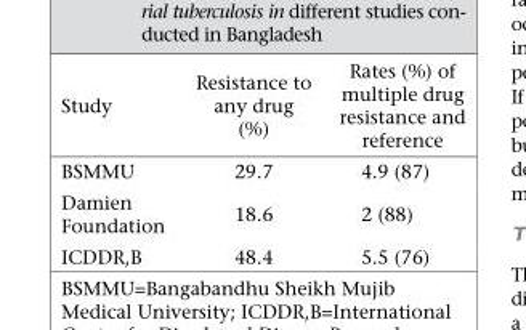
<table><thead><tr><td>Study</td><td>Resistance to any drug (%)</td><td>Rates (%) of multiple drug resistance and reference</td></tr></thead><tbody><tr><td>BSMMU</td><td>29.7</td><td>4.9 (87)</td></tr><tr><td>Damien Foundation</td><td>18.6</td><td>2 (88)</td></tr><tr><td>ICDDR,B</td><td>48.4</td><td>5.5 (76)</td></tr></tbody></table>